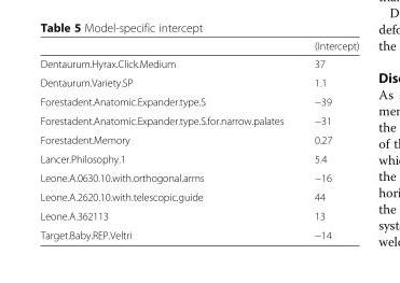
<table><thead><tr><td></td><td>(Intercept)</td></tr></thead><tbody><tr><td>Dentaurum.Hyrax.Click.Medium</td><td>37</td></tr><tr><td>Dentaurum.Variety.SP</td><td>1.1</td></tr><tr><td>Forestadent.Anatomic.Expander.type.S</td><td>−39</td></tr><tr><td>Forestadent.Anatomic.Expander.type.S.for.narrow.palates</td><td>−31</td></tr><tr><td>Forestadent.Memory</td><td>0.27</td></tr><tr><td>Lancer.Philosophy.1</td><td>5.4</td></tr><tr><td>Leone.A.0630.10.with.orthogonal.arms</td><td>−16</td></tr><tr><td>Leone.A.2620.10.with.telescopic.guide</td><td>44</td></tr><tr><td>Leone.A.362113</td><td>13</td></tr><tr><td>Target.Baby.REP.Veltri</td><td>−14</td></tr></tbody></table>